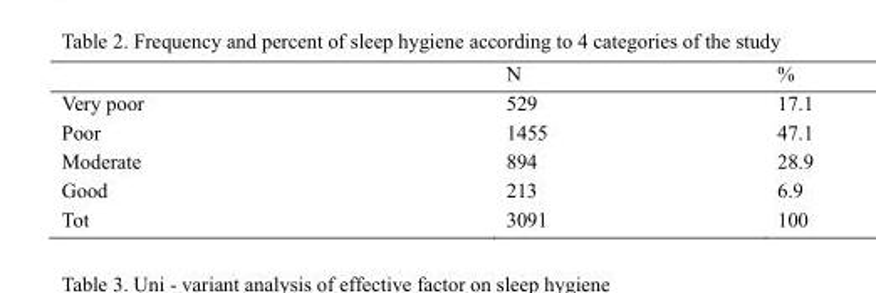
<table><thead><tr><td></td><td>N</td><td>%</td></tr></thead><tbody><tr><td>Very poor</td><td>529</td><td>17.1</td></tr><tr><td>Poor</td><td>1455</td><td>47.1</td></tr><tr><td>Moderate</td><td>894</td><td>28.9</td></tr><tr><td>Good</td><td>213</td><td>6.9</td></tr><tr><td>Tot</td><td>3091</td><td>100</td></tr></tbody></table>